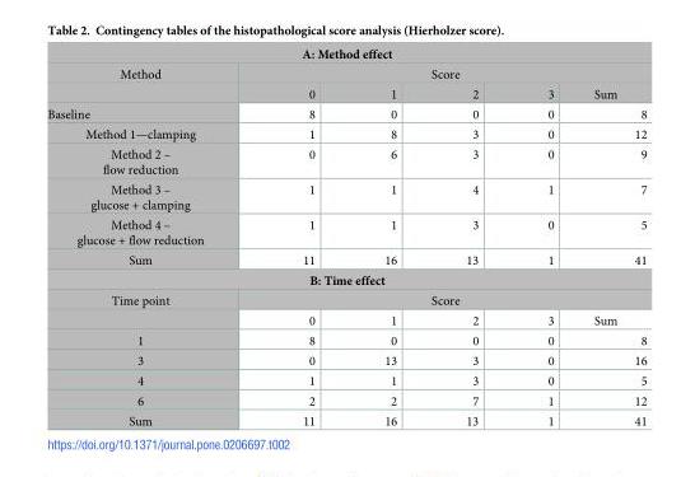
<table><tbody><tr><td colspan="6">A: Method effect</td></tr><tr><td rowspan="2">Method</td><td colspan="5">Score</td></tr><tr><td>0</td><td>1</td><td>2</td><td>3</td><td>Sum</td></tr><tr><td>Baseline</td><td>8</td><td>0</td><td>0</td><td>0</td><td>8</td></tr><tr><td>Method 1—clamping</td><td>1</td><td>8</td><td>3</td><td>0</td><td>12</td></tr><tr><td>Method 2 – flow reduction</td><td>0</td><td>6</td><td>3</td><td>0</td><td>9</td></tr><tr><td>Method 3 – glucose + clamping</td><td>1</td><td>1</td><td>4</td><td>1</td><td>7</td></tr><tr><td>Method 4 – glucose + flow reduction</td><td>1</td><td>1</td><td>3</td><td>0</td><td>5</td></tr><tr><td>Sum</td><td>11</td><td>16</td><td>13</td><td>1</td><td>41</td></tr><tr><td colspan="6">B: Time effect</td></tr><tr><td rowspan="2">Time point</td><td colspan="5">Score</td></tr><tr><td>0</td><td>1</td><td>2</td><td>3</td><td>Sum</td></tr><tr><td>1</td><td>8</td><td>0</td><td>0</td><td>0</td><td>8</td></tr><tr><td>3</td><td>0</td><td>13</td><td>3</td><td>0</td><td>16</td></tr><tr><td>4</td><td>1</td><td>1</td><td>3</td><td>0</td><td>5</td></tr><tr><td>6</td><td>2</td><td>2</td><td>7</td><td>1</td><td>12</td></tr><tr><td>Sum</td><td>11</td><td>16</td><td>13</td><td>1</td><td>41</td></tr></tbody></table>